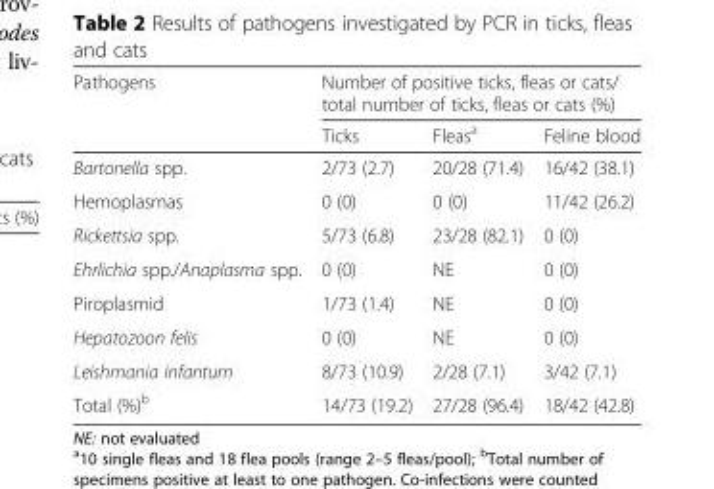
<table><thead><tr><td rowspan="2">Pathogens</td><td colspan="3">Number of positive ticks, fleas or cats/ total number of ticks, fleas or cats (%)</td></tr><tr><td>Ticks</td><td>Fleas<sup>a</sup></td><td>Feline blood</td></tr></thead><tbody><tr><td>Bartonella spp.</td><td>2/73 (2.7)</td><td>20/28 (71.4)</td><td>16/42 (38.1)</td></tr><tr><td>Hemoplasmas</td><td>0 (0)</td><td>0 (0)</td><td>11/42 (26.2)</td></tr><tr><td>Rickettsia spp.</td><td>5/73 (6.8)</td><td>23/28 (82.1)</td><td>0 (0)</td></tr><tr><td>Ehrlichia spp./Anaplasma spp.</td><td>0 (0)</td><td>NE</td><td>0 (0)</td></tr><tr><td>Piroplasmid</td><td>1/73 (1.4)</td><td>NE</td><td>0 (0)</td></tr><tr><td>Hepatozoon felis</td><td>0 (0)</td><td>NE</td><td>0 (0)</td></tr><tr><td>Leishmania infantum</td><td>8/73 (10.9)</td><td>2/28 (7.1)</td><td>3/42 (7.1)</td></tr><tr><td>Total (%)<sup>b</sup></td><td>14/73 (19.2)</td><td>27/28 (96.4)</td><td>18/42 (42.8)</td></tr></tbody></table>